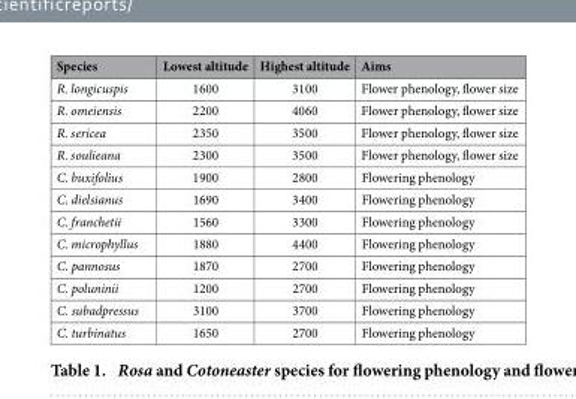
<table><thead><tr><td>Species</td><td>Lowest altitude</td><td>Highest altitude</td><td>Aims</td></tr></thead><tbody><tr><td>R. longicuspis</td><td>1600</td><td>3100</td><td>Flower phenology, flower size</td></tr><tr><td>R. omeiensis</td><td>2200</td><td>4060</td><td>Flower phenology, flower size</td></tr><tr><td>R. sericea</td><td>2350</td><td>3500</td><td>Flower phenology, flower size</td></tr><tr><td>R. soulieana</td><td>2300</td><td>3500</td><td>Flower phenology, flower size</td></tr><tr><td>C. buxifolius</td><td>1900</td><td>2800</td><td>Flowering phenology</td></tr><tr><td>C. dielsianus</td><td>1690</td><td>3400</td><td>Flowering phenology</td></tr><tr><td>C. franchetii</td><td>1560</td><td>3300</td><td>Flowering phenology</td></tr><tr><td>C. microphyllus</td><td>1880</td><td>4400</td><td>Flowering phenology</td></tr><tr><td>C. pannosus</td><td>1870</td><td>2700</td><td>Flowering phenology</td></tr><tr><td>C. poluninii</td><td>1200</td><td>2700</td><td>Flowering phenology</td></tr><tr><td>C. subadpressus</td><td>3100</td><td>3700</td><td>Flowering phenology</td></tr><tr><td>C. turbinatus</td><td>1650</td><td>2700</td><td>Flowering phenology</td></tr></tbody></table>